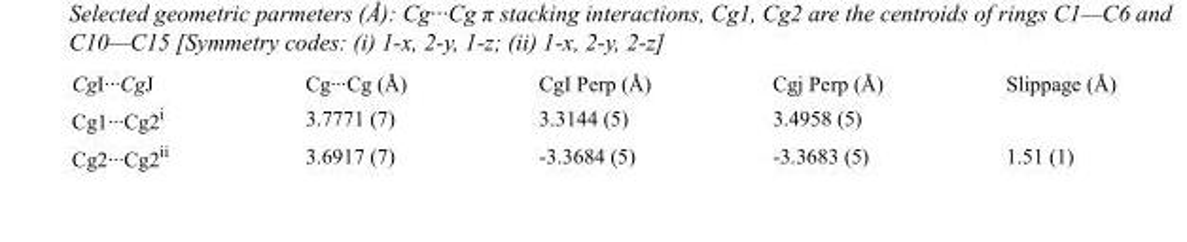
<table><tbody><tr><td>CgI···CgJ</td><td>Cg···Cg (Å)</td><td>CgI Perp (Å)</td><td>Cgj Perp (Å)</td><td>Slippage (Å)</td></tr><tr><td>Cg1···Cg2<sup>i</sup></td><td>3.7771 (7)</td><td>3.3144 (5)</td><td>3.4958 (5)</td><td></td></tr><tr><td>Cg2···Cg2<sup>ii</sup></td><td>3.6917 (7)</td><td>-3.3684 (5)</td><td>-3.3683 (5)</td><td>1.51 (1)</td></tr></tbody></table>